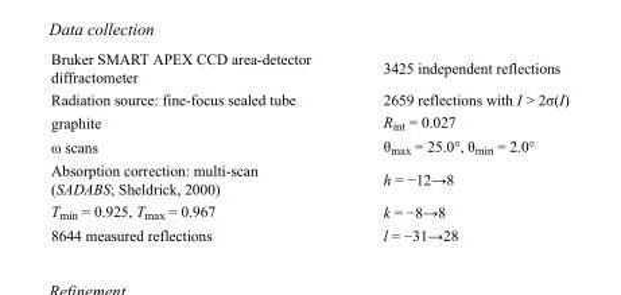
<table><tbody><tr><td>Bruker SMART APEX CCD area-detector diffractometer</td><td>3425 independent reflections</td></tr><tr><td>Radiation source: fine-focus sealed tube</td><td>2659 reflections with I &gt; 2σ(I)</td></tr><tr><td>graphite</td><td>R<sub>int</sub> = 0.027</td></tr><tr><td>ω scans</td><td>θ<sub>max</sub> = 25.0°, θ<sub>min</sub> = 2.0°</td></tr><tr><td>Absorption correction: multi-scan (SADABS; Sheldrick, 2000)</td><td>h = −12→8</td></tr><tr><td>T<sub>min</sub> = 0.925, T<sub>max</sub> = 0.967</td><td>k = −8→8</td></tr><tr><td>8644 measured reflections</td><td>l = −31→28</td></tr></tbody></table>